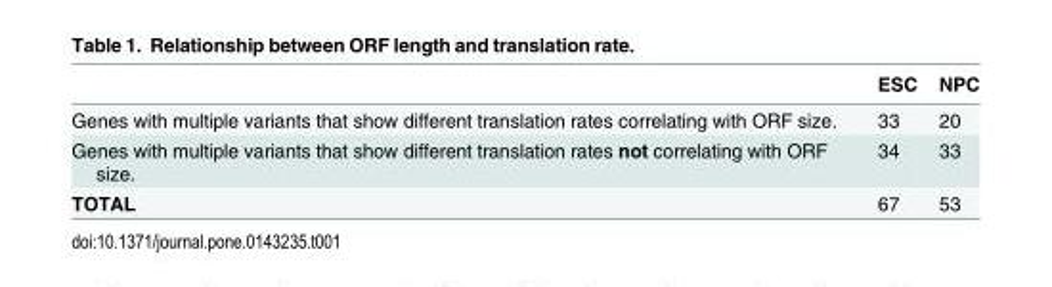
<table><thead><tr><td></td><td>ESC</td><td>NPC</td></tr></thead><tbody><tr><td>Genes with multiple variants that show different translation rates correlating with ORF size.</td><td>33</td><td>20</td></tr><tr><td>Genes with multiple variants that show different translation rates not correlating with ORF size.</td><td>34</td><td>33</td></tr><tr><td>TOTAL</td><td>67</td><td>53</td></tr></tbody></table>